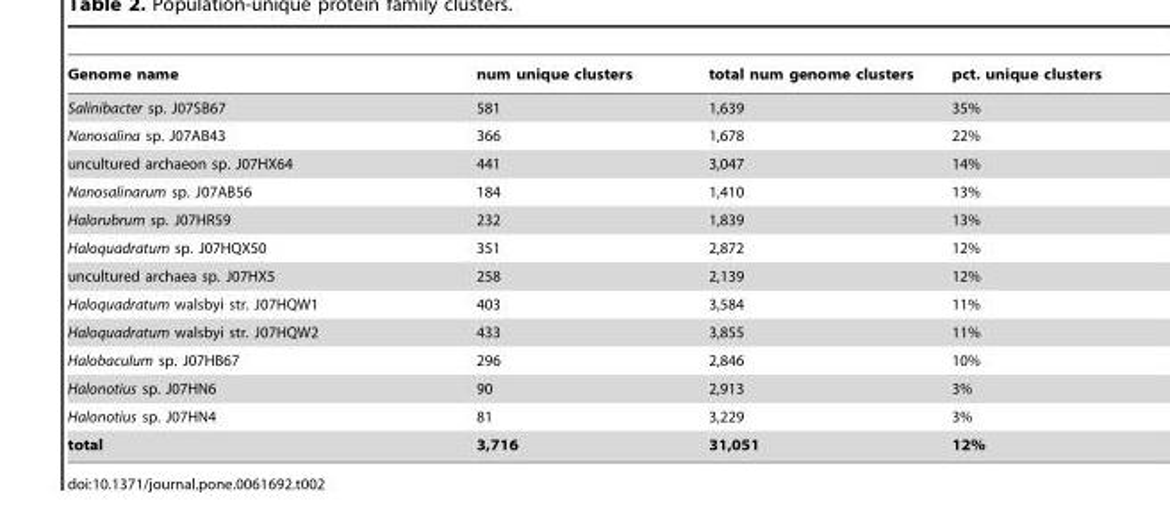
<table><thead><tr><td>Genome name</td><td>num unique clusters</td><td>total num genome clusters</td><td>pct. unique clusters</td></tr></thead><tbody><tr><td>Salinibacter sp. J07SB67</td><td>581</td><td>1,639</td><td>35%</td></tr><tr><td>Nanosalina sp. J07AB43</td><td>366</td><td>1,678</td><td>22%</td></tr><tr><td>uncultured archaeon sp. J07HX64</td><td>441</td><td>3,047</td><td>14%</td></tr><tr><td>Nanosalinarum sp. J07AB56</td><td>184</td><td>1,410</td><td>13%</td></tr><tr><td>Halorubrum sp. J07HR59</td><td>232</td><td>1,839</td><td>13%</td></tr><tr><td>Haloquadratum sp. J07HQX50</td><td>351</td><td>2,872</td><td>12%</td></tr><tr><td>uncultured archaea sp. J07HX5</td><td>258</td><td>2,139</td><td>12%</td></tr><tr><td>Haloquadratum walsbyi str. J07HQW1</td><td>403</td><td>3,584</td><td>11%</td></tr><tr><td>Haloquadratum walsbyi str. J07HQW2</td><td>433</td><td>3,855</td><td>11%</td></tr><tr><td>Halobaculum sp. J07HB67</td><td>296</td><td>2,846</td><td>10%</td></tr><tr><td>Halonotius sp. J07HN6</td><td>90</td><td>2,913</td><td>3%</td></tr><tr><td>Halonotius sp. J07HN4</td><td>81</td><td>3,229</td><td>3%</td></tr><tr><td>total</td><td>3,716</td><td>31,051</td><td>12%</td></tr></tbody></table>